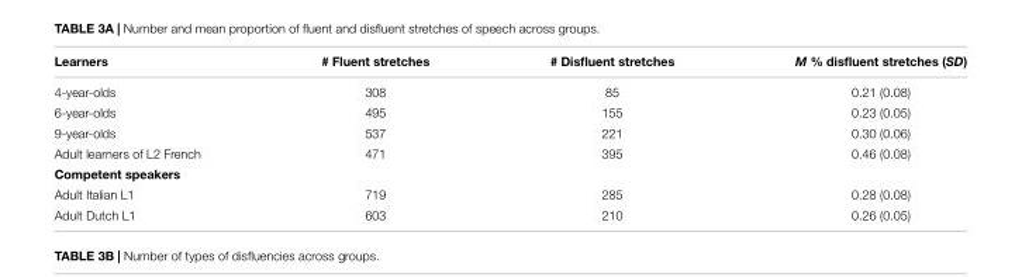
<table><thead><tr><td>Learners</td><td># Fluent stretches</td><td># Disfluent stretches</td><td>M % disfluent stretches (SD)</td></tr></thead><tbody><tr><td>4-year-olds</td><td>308</td><td>85</td><td>0.21 (0.08)</td></tr><tr><td>6-year-olds</td><td>495</td><td>155</td><td>0.23 (0.05)</td></tr><tr><td>9-year-olds</td><td>537</td><td>221</td><td>0.30 (0.06)</td></tr><tr><td>Adult learners of L2 French</td><td>471</td><td>395</td><td>0.46 (0.08)</td></tr><tr><td colspan="4">Competent speakers</td></tr><tr><td>Adult Italian L1</td><td>719</td><td>285</td><td>0.28 (0.08)</td></tr><tr><td>Adult Dutch L1</td><td>603</td><td>210</td><td>0.26 (0.05)</td></tr></tbody></table>